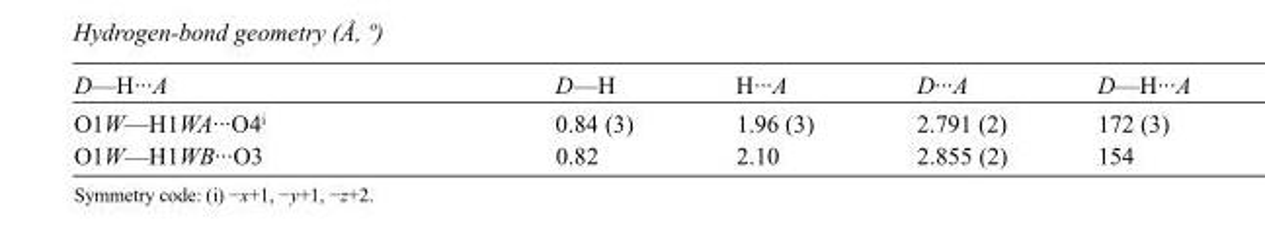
<table><tbody><tr><td>D—H···A</td><td>D—H</td><td>H···A</td><td>D···A</td><td>D—H···A</td></tr><tr><td>O1W—H1WA···O4<sup>i</sup></td><td>0.84 (3)</td><td>1.96 (3)</td><td>2.791 (2)</td><td>172 (3)</td></tr><tr><td>O1W—H1WB···O3</td><td>0.82</td><td>2.10</td><td>2.855 (2)</td><td>154</td></tr></tbody></table>